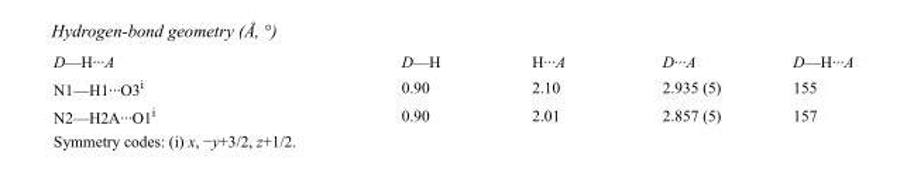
<table><tbody><tr><td>D—H···A</td><td>D—H</td><td>H···A</td><td>D···A</td><td>D—H···A</td></tr><tr><td>N1—H1···O3<sup>i</sup></td><td>0.90</td><td>2.10</td><td>2.935 (5)</td><td>155</td></tr><tr><td>N2—H2A···O1<sup>i</sup></td><td>0.90</td><td>2.01</td><td>2.857 (5)</td><td>157</td></tr></tbody></table>